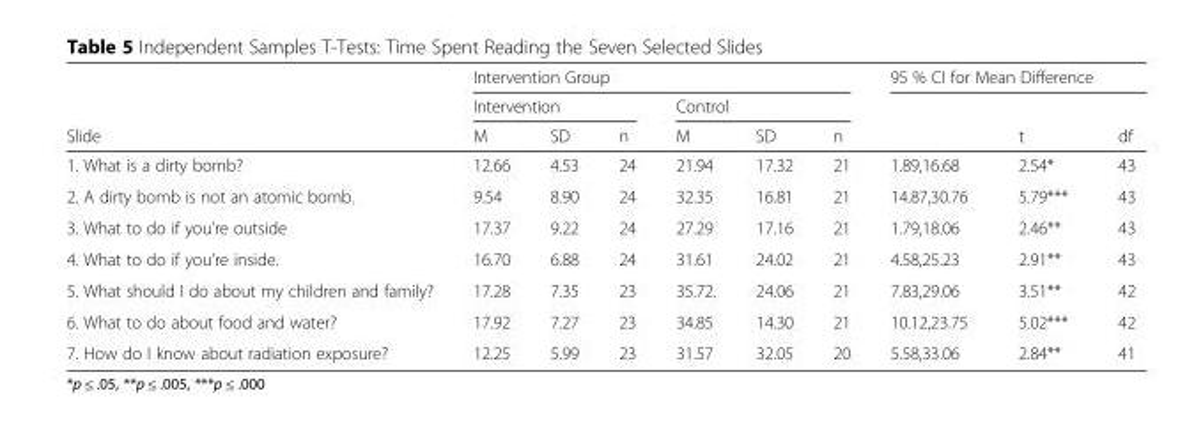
<table><thead><tr><td rowspan="3">Slide</td><td colspan="6">Intervention Group</td><td colspan="3">95 % CI for Mean Difference</td></tr><tr><td colspan="3">Intervention</td><td colspan="3">Control</td><td rowspan="2"></td><td rowspan="2">t</td><td rowspan="2">df</td></tr><tr><td>M</td><td>SD</td><td>n</td><td>M</td><td>SD</td><td>n</td></tr></thead><tbody><tr><td>1. What is a dirty bomb?</td><td>12.66</td><td>4.53</td><td>24</td><td>21.94</td><td>17.32</td><td>21</td><td>1.89,16.68</td><td>2.54*</td><td>43</td></tr><tr><td>2. A dirty bomb is not an atomic bomb.</td><td>9.54</td><td>8.90</td><td>24</td><td>32.35</td><td>16.81</td><td>21</td><td>14.87,30.76</td><td>5.79***</td><td>43</td></tr><tr><td>3. What to do if you’re outside</td><td>17.37</td><td>9.22</td><td>24</td><td>27.29</td><td>17.16</td><td>21</td><td>1.79,18.06</td><td>2.46**</td><td>43</td></tr><tr><td>4. What to do if you’re inside.</td><td>16.70</td><td>6.88</td><td>24</td><td>31.61</td><td>24.02</td><td>21</td><td>4.58,25.23</td><td>2.91**</td><td>43</td></tr><tr><td>5. What should I do about my children and family?</td><td>17.28</td><td>7.35</td><td>23</td><td>35.72.</td><td>24.06</td><td>21</td><td>7.83,29.06</td><td>3.51**</td><td>42</td></tr><tr><td>6. What to do about food and water?</td><td>17.92</td><td>7.27</td><td>23</td><td>34.85</td><td>14.30</td><td>21</td><td>10.12,23.75</td><td>5.02***</td><td>42</td></tr><tr><td>7. How do I know about radiation exposure?</td><td>12.25</td><td>5.99</td><td>23</td><td>31.57</td><td>32.05</td><td>20</td><td>5.58,33.06</td><td>2.84**</td><td>41</td></tr></tbody></table>